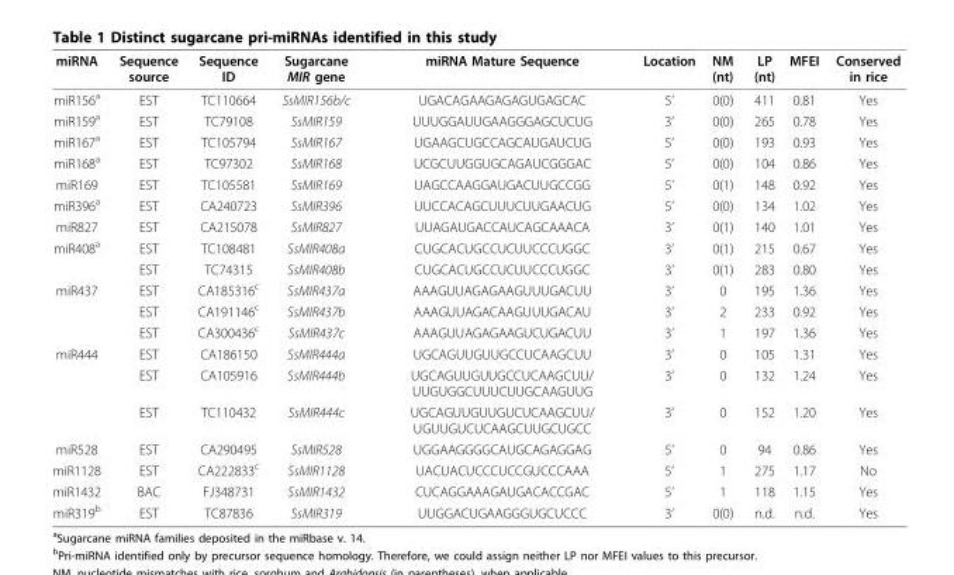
<table><thead><tr><td>miRNA</td><td>Sequence source</td><td>Sequence ID</td><td>Sugarcane MIR gene</td><td>miRNA Mature Sequence</td><td>Location</td><td>NM (nt)</td><td>LP (nt)</td><td>MFEI</td><td>Conserved in rice</td></tr></thead><tbody><tr><td>miR156<sup>a</sup></td><td>EST</td><td>TC110664</td><td>SsMIR156b/c</td><td>UGACAGAAGAGAGUGAGCAC</td><td>5’</td><td>0(0)</td><td>411</td><td>0.81</td><td>Yes</td></tr><tr><td>miR159<sup>a</sup></td><td>EST</td><td>TC79108</td><td>SsMIR159</td><td>UUUGGAUUGAAGGGAGCUCUG</td><td>3’</td><td>0(0)</td><td>265</td><td>0.78</td><td>Yes</td></tr><tr><td>miR167<sup>a</sup></td><td>EST</td><td>TC105794</td><td>SsMIR167</td><td>UGAAGCUGCCAGCAUGAUCUG</td><td>5’</td><td>0(0)</td><td>193</td><td>0.93</td><td>Yes</td></tr><tr><td>miR168<sup>a</sup></td><td>EST</td><td>TC97302</td><td>SsMIR168</td><td>UCGCUUGGUGCAGAUCGGGAC</td><td>5’</td><td>0(0)</td><td>104</td><td>0.86</td><td>Yes</td></tr><tr><td>miR169</td><td>EST</td><td>TC105581</td><td>SsMIR169</td><td>UAGCCAAGGAUGACUUGCCGG</td><td>5’</td><td>0(1)</td><td>148</td><td>0.92</td><td>Yes</td></tr><tr><td>miR396<sup>a</sup></td><td>EST</td><td>CA240723</td><td>SsMIR396</td><td>UUCCACAGCUUUCUUGAACUG</td><td>5’</td><td>0(0)</td><td>134</td><td>1.02</td><td>Yes</td></tr><tr><td>miR827</td><td>EST</td><td>CA215078</td><td>SsMIR827</td><td>UUAGAUGACCAUCAGCAAACA</td><td>3’</td><td>0(1)</td><td>140</td><td>1.01</td><td>Yes</td></tr><tr><td rowspan="2">miR408<sup>a</sup></td><td>EST</td><td>TC108481</td><td>SsMIR408a</td><td>CUGCACUGCCUCUUCCCUGGC</td><td>3’</td><td>0(1)</td><td>215</td><td>0.67</td><td>Yes</td></tr><tr><td>EST</td><td>TC74315</td><td>SsMIR408b</td><td>CUGCACUGCCUCUUCCCUGGC</td><td>3’</td><td>0(1)</td><td>283</td><td>0.80</td><td>Yes</td></tr><tr><td rowspan="3">miR437</td><td>EST</td><td>CA185316<sup>c</sup></td><td>SsMIR437a</td><td>AAAGUUAGAGAAGUUUGACUU</td><td>3’</td><td>0</td><td>195</td><td>1.36</td><td>Yes</td></tr><tr><td>EST</td><td>CA191146<sup>c</sup></td><td>SsMIR437b</td><td>AAAGUUAGACAAGUUUGACAU</td><td>3’</td><td>2</td><td>233</td><td>0.92</td><td>Yes</td></tr><tr><td>EST</td><td>CA300436<sup>c</sup></td><td>SsMIR437c</td><td>AAAGUUAGAGAAGUCUGACUU</td><td>3’</td><td>1</td><td>197</td><td>1.36</td><td>Yes</td></tr><tr><td rowspan="3">miR444</td><td>EST</td><td>CA186150</td><td>SsMIR444a</td><td>UGCAGUUGUUGCCUCAAGCUU</td><td>3’</td><td>0</td><td>105</td><td>1.31</td><td>Yes</td></tr><tr><td>EST</td><td>CA105916</td><td>SsMIR444b</td><td>UGCAGUUGUUGCCUCAAGCUU/ UUGUGGCUUUCUUGCAAGUUG</td><td>3’</td><td>0</td><td>132</td><td>1.24</td><td>Yes</td></tr><tr><td>EST</td><td>TC110432</td><td>SsMIR444c</td><td>UGCAGUUGUUGUCUCAAGCUU/ UGUUGUCUCAAGCUUGCUGCC</td><td>3’</td><td>0</td><td>152</td><td>1.20</td><td>Yes</td></tr><tr><td>miR528</td><td>EST</td><td>CA290495</td><td>SsMIR528</td><td>UGGAAGGGGCAUGCAGAGGAG</td><td>5’</td><td>0</td><td>94</td><td>0.86</td><td>Yes</td></tr><tr><td>miR1128</td><td>EST</td><td>CA222833<sup>c</sup></td><td>SsMIR1128</td><td>UACUACUCCCUCCGUCCCAAA</td><td>5’</td><td>1</td><td>275</td><td>1.17</td><td>No</td></tr><tr><td>miR1432</td><td>BAC</td><td>FJ348731</td><td>SsMIR1432</td><td>CUCAGGAAAGAUGACACCGAC</td><td>5’</td><td>1</td><td>118</td><td>1.15</td><td>Yes</td></tr><tr><td>miR319<sup>b</sup></td><td>EST</td><td>TC87836</td><td>SsMIR319</td><td>UUGGACUGAAGGGUGCUCCC</td><td>3’</td><td>0(0)</td><td>n.d.</td><td>n.d.</td><td>Yes</td></tr></tbody></table>